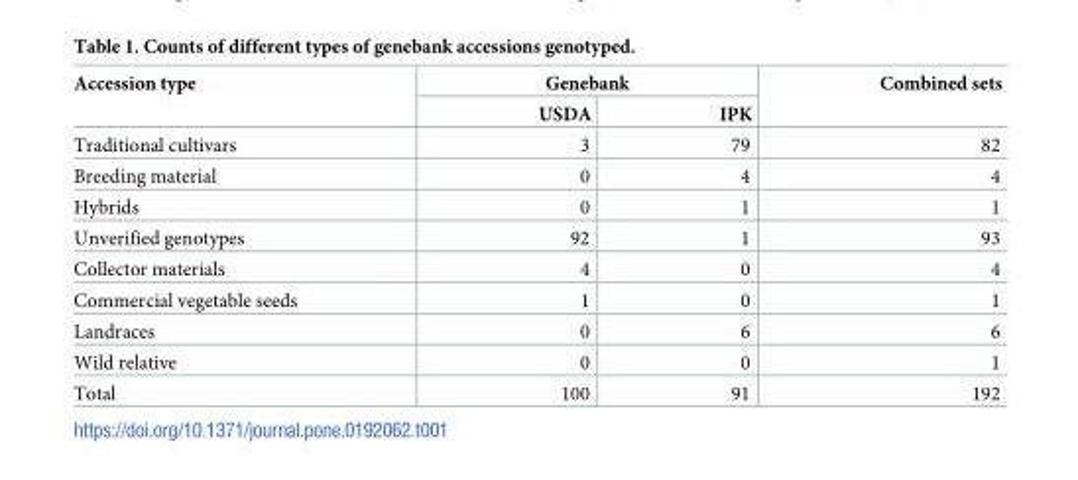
<table><thead><tr><td rowspan="2">Accession type</td><td colspan="2">Genebank</td><td rowspan="2">Combined sets</td></tr><tr><td>USDA</td><td>IPK</td></tr></thead><tbody><tr><td>Traditional cultivars</td><td>3</td><td>79</td><td>82</td></tr><tr><td>Breeding material</td><td>0</td><td>4</td><td>4</td></tr><tr><td>Hybrids</td><td>0</td><td>1</td><td>1</td></tr><tr><td>Unverified genotypes</td><td>92</td><td>1</td><td>93</td></tr><tr><td>Collector materials</td><td>4</td><td>0</td><td>4</td></tr><tr><td>Commercial vegetable seeds</td><td>1</td><td>0</td><td>1</td></tr><tr><td>Landraces</td><td>0</td><td>6</td><td>6</td></tr><tr><td>Wild relative</td><td>0</td><td>0</td><td>1</td></tr><tr><td>Total</td><td>100</td><td>91</td><td>192</td></tr></tbody></table>